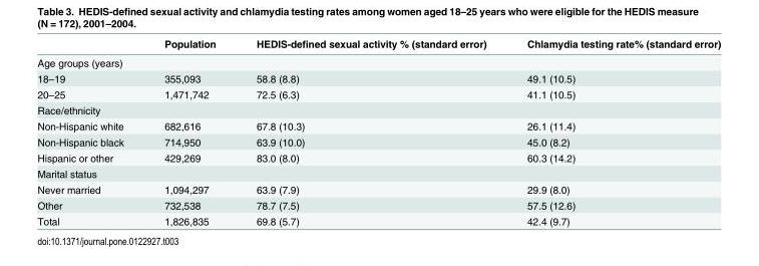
<table><thead><tr><td></td><td>Population</td><td>HEDIS-defined sexual activity % (standard error)</td><td>Chlamydia testing rate% (standard error)</td></tr></thead><tbody><tr><td colspan="4">Age groups (years)</td></tr><tr><td>18–19</td><td>355,093</td><td>58.8 (8.8)</td><td>49.1 (10.5)</td></tr><tr><td>20–25</td><td>1,471,742</td><td>72.5 (6.3)</td><td>41.1 (10.5)</td></tr><tr><td colspan="4">Race/ethnicity</td></tr><tr><td>Non-Hispanic white</td><td>682,616</td><td>67.8 (10.3)</td><td>26.1 (11.4)</td></tr><tr><td>Non-Hispanic black</td><td>714,950</td><td>63.9 (10.0)</td><td>45.0 (8.2)</td></tr><tr><td>Hispanic or other</td><td>429,269</td><td>83.0 (8.0)</td><td>60.3 (14.2)</td></tr><tr><td colspan="4">Marital status</td></tr><tr><td>Never married</td><td>1,094,297</td><td>63.9 (7.9)</td><td>29.9 (8.0)</td></tr><tr><td>Other</td><td>732,538</td><td>78.7 (7.5)</td><td>57.5 (12.6)</td></tr><tr><td>Total</td><td>1,826,835</td><td>69.8 (5.7)</td><td>42.4 (9.7)</td></tr></tbody></table>